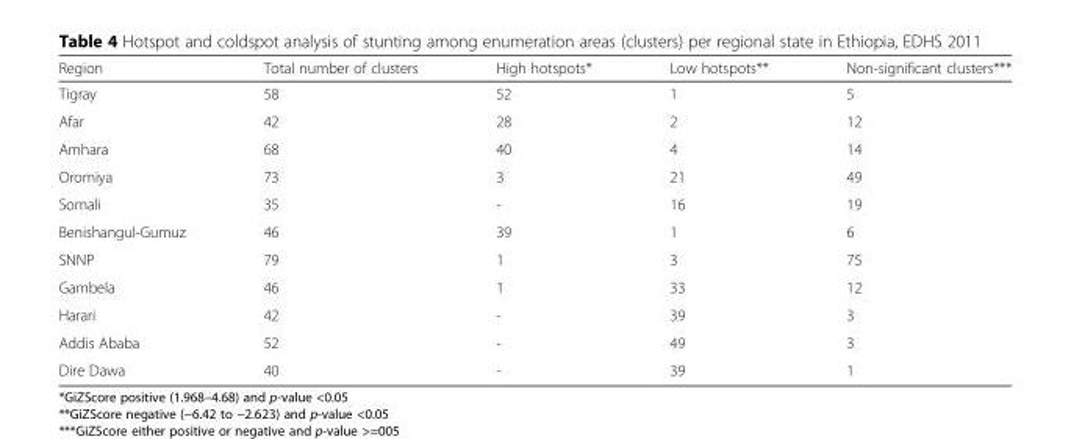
<table><thead><tr><td>Region</td><td>Total number of clusters</td><td>High hotspots*</td><td>Low hotspots**</td><td>Non-significant clusters***</td></tr></thead><tbody><tr><td>Tigray</td><td>58</td><td>52</td><td>1</td><td>5</td></tr><tr><td>Afar</td><td>42</td><td>28</td><td>2</td><td>12</td></tr><tr><td>Amhara</td><td>68</td><td>40</td><td>4</td><td>14</td></tr><tr><td>Oromiya</td><td>73</td><td>3</td><td>21</td><td>49</td></tr><tr><td>Somali</td><td>35</td><td>-</td><td>16</td><td>19</td></tr><tr><td>Benishangul-Gumuz</td><td>46</td><td>39</td><td>1</td><td>6</td></tr><tr><td>SNNP</td><td>79</td><td>1</td><td>3</td><td>75</td></tr><tr><td>Gambela</td><td>46</td><td>1</td><td>33</td><td>12</td></tr><tr><td>Harari</td><td>42</td><td>-</td><td>39</td><td>3</td></tr><tr><td>Addis Ababa</td><td>52</td><td>-</td><td>49</td><td>3</td></tr><tr><td>Dire Dawa</td><td>40</td><td>-</td><td>39</td><td>1</td></tr></tbody></table>